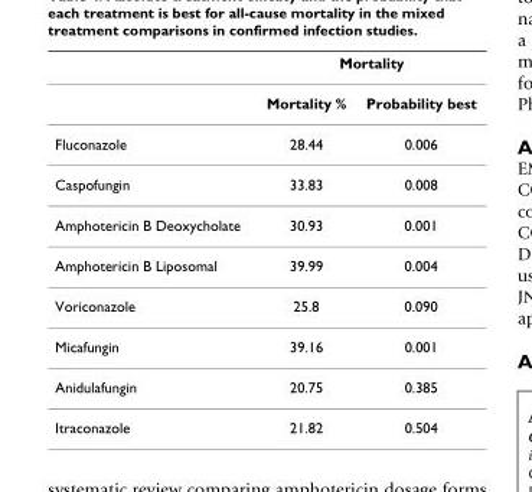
<table><thead><tr><td rowspan="2"></td><td colspan="2">Mortality</td></tr><tr><td>Mortality %</td><td>Probability best</td></tr></thead><tbody><tr><td>Fluconazole</td><td>28.44</td><td>0.006</td></tr><tr><td>Caspofungin</td><td>33.83</td><td>0.008</td></tr><tr><td>Amphotericin B Deoxycholate</td><td>30.93</td><td>0.001</td></tr><tr><td>Amphotericin B Liposomal</td><td>39.99</td><td>0.004</td></tr><tr><td>Voriconazole</td><td>25.8</td><td>0.090</td></tr><tr><td>Micafungin</td><td>39.16</td><td>0.001</td></tr><tr><td>Anidulafungin</td><td>20.75</td><td>0.385</td></tr><tr><td>Itraconazole</td><td>21.82</td><td>0.504</td></tr></tbody></table>